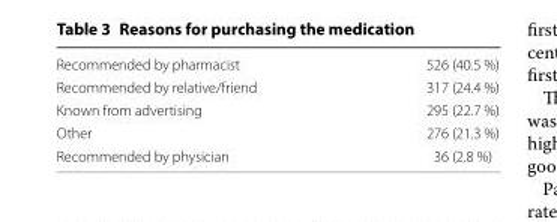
<table><tbody><tr><td>Recommended by pharmacist</td><td>526 (40.5 %)</td></tr><tr><td>Recommended by relative/friend</td><td>317 (24.4 %)</td></tr><tr><td>Known from advertising</td><td>295 (22.7 %)</td></tr><tr><td>Other</td><td>276 (21.3 %)</td></tr><tr><td>Recommended by physician</td><td>36 (2.8 %)</td></tr></tbody></table>